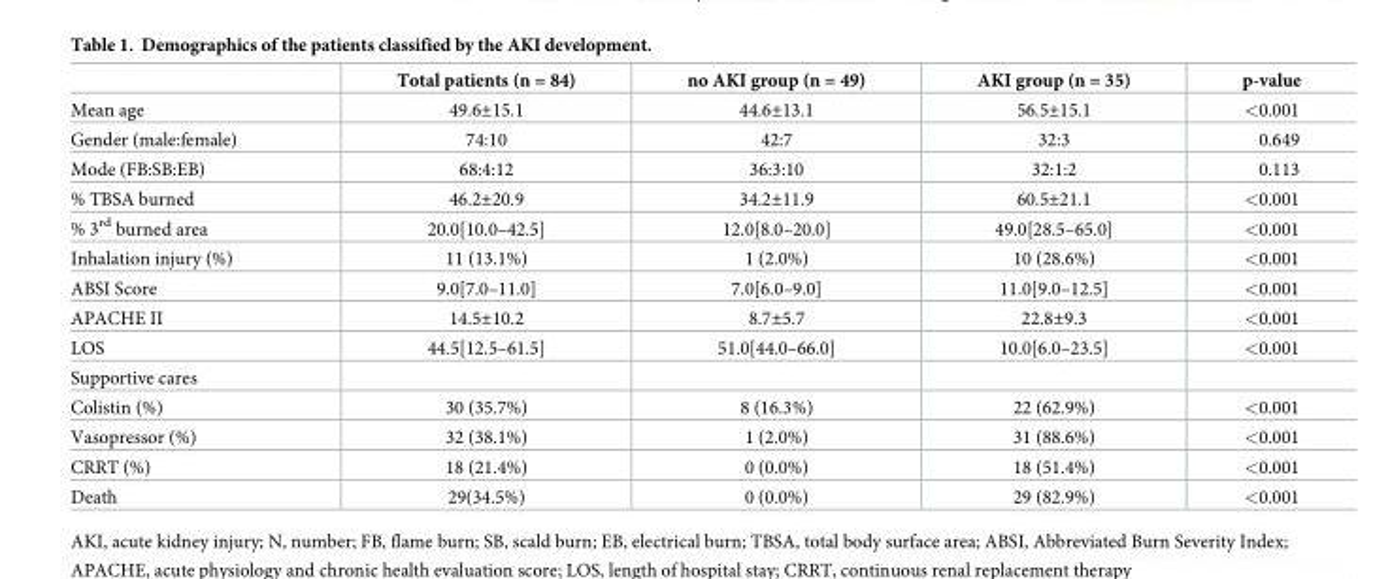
<table><thead><tr><td></td><td>Total patients (n = 84)</td><td>no AKI group (n = 49)</td><td>AKI group (n = 35)</td><td>p-value</td></tr></thead><tbody><tr><td>Mean age</td><td>49.6±15.1</td><td>44.6±13.1</td><td>56.5±15.1</td><td>&lt;0.001</td></tr><tr><td>Gender (male:female)</td><td>74:10</td><td>42:7</td><td>32:3</td><td>0.649</td></tr><tr><td>Mode (FB:SB:EB)</td><td>68:4:12</td><td>36:3:10</td><td>32:1:2</td><td>0.113</td></tr><tr><td>% TBSA burned</td><td>46.2±20.9</td><td>34.2±11.9</td><td>60.5±21.1</td><td>&lt;0.001</td></tr><tr><td>% 3<sup>rd</sup> burned area</td><td>20.0[10.0–42.5]</td><td>12.0[8.0–20.0]</td><td>49.0[28.5–65.0]</td><td>&lt;0.001</td></tr><tr><td>Inhalation injury (%)</td><td>11 (13.1%)</td><td>1 (2.0%)</td><td>10 (28.6%)</td><td>&lt;0.001</td></tr><tr><td>ABSI Score</td><td>9.0[7.0–11.0]</td><td>7.0[6.0–9.0]</td><td>11.0[9.0–12.5]</td><td>&lt;0.001</td></tr><tr><td>APACHE II</td><td>14.5±10.2</td><td>8.7±5.7</td><td>22.8±9.3</td><td>&lt;0.001</td></tr><tr><td>LOS</td><td>44.5[12.5–61.5]</td><td>51.0[44.0–66.0]</td><td>10.0[6.0–23.5]</td><td>&lt;0.001</td></tr><tr><td colspan="5">Supportive cares</td></tr><tr><td>Colistin (%)</td><td>30 (35.7%)</td><td>8 (16.3%)</td><td>22 (62.9%)</td><td>&lt;0.001</td></tr><tr><td>Vasopressor (%)</td><td>32 (38.1%)</td><td>1 (2.0%)</td><td>31 (88.6%)</td><td>&lt;0.001</td></tr><tr><td>CRRT (%)</td><td>18 (21.4%)</td><td>0 (0.0%)</td><td>18 (51.4%)</td><td>&lt;0.001</td></tr><tr><td>Death</td><td>29(34.5%)</td><td>0 (0.0%)</td><td>29 (82.9%)</td><td>&lt;0.001</td></tr></tbody></table>